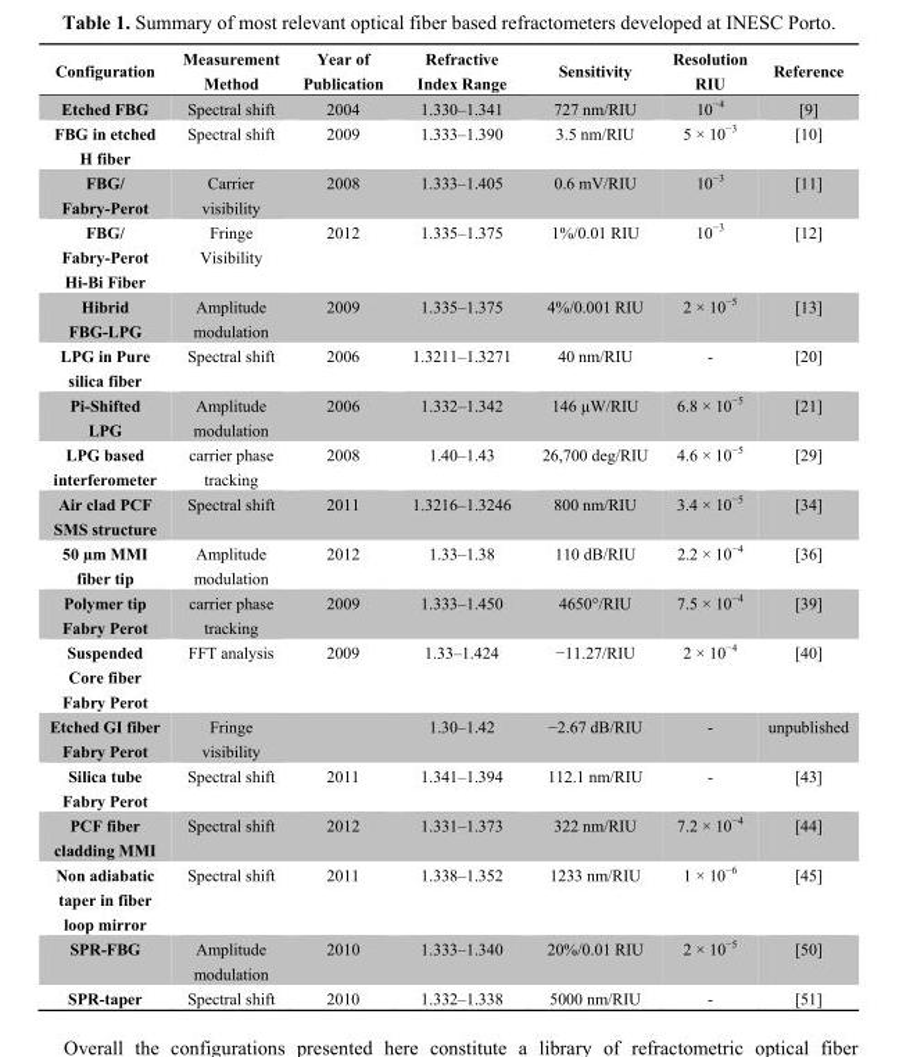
<table><thead><tr><td>Configuration</td><td>Measurement Method</td><td>Year of Publication</td><td>Refractive Index Range</td><td>Sensitivity</td><td>Resolution RIU</td><td>Reference</td></tr></thead><tbody><tr><td>Etched FBG</td><td>Spectral shift</td><td>2004</td><td>1.330–1.341</td><td>727 nm/RIU</td><td>10<sup>−4</sup></td><td>[9]</td></tr><tr><td>FBG in etched H fiber</td><td>Spectral shift</td><td>2009</td><td>1.333–1.390</td><td>3.5 nm/RIU</td><td>5 × 10<sup>−3</sup></td><td>[10]</td></tr><tr><td>FBG/ Fabry-Perot</td><td>Carrier visibility</td><td>2008</td><td>1.333–1.405</td><td>0.6 mV/RIU</td><td>10<sup>−3</sup></td><td>[11]</td></tr><tr><td>FBG/ Fabry-Perot Hi-Bi Fiber</td><td>Fringe Visibility</td><td>2012</td><td>1.335–1.375</td><td>1%/0.01 RIU</td><td>10<sup>−3</sup></td><td>[12]</td></tr><tr><td>Hibrid FBG-LPG</td><td>Amplitude modulation</td><td>2009</td><td>1.335–1.375</td><td>4%/0.001 RIU</td><td>2 × 10<sup>−5</sup></td><td>[13]</td></tr><tr><td>LPG in Pure silica fiber</td><td>Spectral shift</td><td>2006</td><td>1.3211–1.3271</td><td>40 nm/RIU</td><td>-</td><td>[20]</td></tr><tr><td>Pi-Shifted LPG</td><td>Amplitude modulation</td><td>2006</td><td>1.332–1.342</td><td>146 µW/RIU</td><td>6.8 × 10<sup>−5</sup></td><td>[21]</td></tr><tr><td>LPG based interferometer</td><td>carrier phase tracking</td><td>2008</td><td>1.40–1.43</td><td>26,700 deg/RIU</td><td>4.6 × 10<sup>−5</sup></td><td>[29]</td></tr><tr><td>Air clad PCF SMS structure</td><td>Spectral shift</td><td>2011</td><td>1.3216–1.3246</td><td>800 nm/RIU</td><td>3.4 × 10<sup>−5</sup></td><td>[34]</td></tr><tr><td>50 µm MMI fiber tip</td><td>Amplitude modulation</td><td>2012</td><td>1.33–1.38</td><td>110 dB/RIU</td><td>2.2 × 10<sup>−4</sup></td><td>[36]</td></tr><tr><td>Polymer tip Fabry Perot</td><td>carrier phase tracking</td><td>2009</td><td>1.333–1.450</td><td>4650°/RIU</td><td>7.5 × 10<sup>−4</sup></td><td>[39]</td></tr><tr><td>Suspended Core fiber Fabry Perot</td><td>FFT analysis</td><td>2009</td><td>1.33–1.424</td><td>−11.27/RIU</td><td>2 × 10<sup>−4</sup></td><td>[40]</td></tr><tr><td>Etched GI fiber Fabry Perot</td><td>Fringe visibility</td><td></td><td>1.30–1.42</td><td>−2.67 dB/RIU</td><td>-</td><td>unpublished</td></tr><tr><td>Silica tube Fabry Perot</td><td>Spectral shift</td><td>2011</td><td>1.341–1.394</td><td>112.1 nm/RIU</td><td>-</td><td>[43]</td></tr><tr><td>PCF fiber cladding MMI</td><td>Spectral shift</td><td>2012</td><td>1.331–1.373</td><td>322 nm/RIU</td><td>7.2 × 10<sup>−4</sup></td><td>[44]</td></tr><tr><td>Non adiabatic taper in fiber loop mirror</td><td>Spectral shift</td><td>2011</td><td>1.338–1.352</td><td>1233 nm/RIU</td><td>1 × 10<sup>−6</sup></td><td>[45]</td></tr><tr><td>SPR-FBG</td><td>Amplitude modulation</td><td>2010</td><td>1.333–1.340</td><td>20%/0.01 RIU</td><td>2 × 10<sup>−5</sup></td><td>[50]</td></tr><tr><td>SPR-taper</td><td>Spectral shift</td><td>2010</td><td>1.332–1.338</td><td>5000 nm/RIU</td><td>-</td><td>[51]</td></tr></tbody></table>